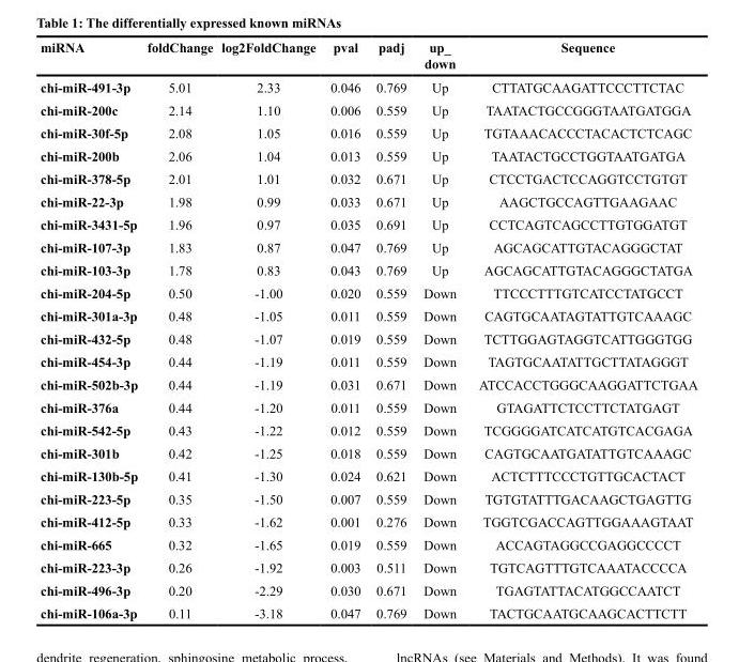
<table><thead><tr><td>miRNA</td><td>foldChange</td><td>log2FoldChange</td><td>pval</td><td>padj</td><td>up_ down</td><td>Sequence</td></tr></thead><tbody><tr><td>chi-miR-491-3p</td><td>5.01</td><td>2.33</td><td>0.046</td><td>0.769</td><td>Up</td><td>CTTATGCAAGATTCCCTTCTAC</td></tr><tr><td>chi-miR-200c</td><td>2.14</td><td>1.10</td><td>0.006</td><td>0.559</td><td>Up</td><td>TAATACTGCCGGGTAATGATGGA</td></tr><tr><td>chi-miR-30f-5p</td><td>2.08</td><td>1.05</td><td>0.016</td><td>0.559</td><td>Up</td><td>TGTAAACACCCTACACTCTCAGC</td></tr><tr><td>chi-miR-200b</td><td>2.06</td><td>1.04</td><td>0.013</td><td>0.559</td><td>Up</td><td>TAATACTGCCTGGTAATGATGA</td></tr><tr><td>chi-miR-378-5p</td><td>2.01</td><td>1.01</td><td>0.032</td><td>0.671</td><td>Up</td><td>CTCCTGACTCCAGGTCCTGTGT</td></tr><tr><td>chi-miR-22-3p</td><td>1.98</td><td>0.99</td><td>0.033</td><td>0.671</td><td>Up</td><td>AAGCTGCCAGTTGAAGAAC</td></tr><tr><td>chi-miR-3431-5p</td><td>1.96</td><td>0.97</td><td>0.035</td><td>0.691</td><td>Up</td><td>CCTCAGTCAGCCTTGTGGATGT</td></tr><tr><td>chi-miR-107-3p</td><td>1.83</td><td>0.87</td><td>0.047</td><td>0.769</td><td>Up</td><td>AGCAGCATTGTACAGGGCTAT</td></tr><tr><td>chi-miR-103-3p</td><td>1.78</td><td>0.83</td><td>0.043</td><td>0.769</td><td>Up</td><td>AGCAGCATTGTACAGGGCTATGA</td></tr><tr><td>chi-miR-204-5p</td><td>0.50</td><td>-1.00</td><td>0.020</td><td>0.559</td><td>Down</td><td>TTCCCTTTGTCATCCTATGCCT</td></tr><tr><td>chi-miR-301a-3p</td><td>0.48</td><td>-1.05</td><td>0.011</td><td>0.559</td><td>Down</td><td>CAGTGCAATAGTATTGTCAAAGC</td></tr><tr><td>chi-miR-432-5p</td><td>0.48</td><td>-1.07</td><td>0.019</td><td>0.559</td><td>Down</td><td>TCTTGGAGTAGGTCATTGGGTGG</td></tr><tr><td>chi-miR-454-3p</td><td>0.44</td><td>-1.19</td><td>0.011</td><td>0.559</td><td>Down</td><td>TAGTGCAATATTGCTTATAGGGT</td></tr><tr><td>chi-miR-502b-3p</td><td>0.44</td><td>-1.19</td><td>0.031</td><td>0.671</td><td>Down</td><td>ATCCACCTGGGCAAGGATTCTGAA</td></tr><tr><td>chi-miR-376a</td><td>0.44</td><td>-1.20</td><td>0.011</td><td>0.559</td><td>Down</td><td>GTAGATTCTCCTTCTATGAGT</td></tr><tr><td>chi-miR-542-5p</td><td>0.43</td><td>-1.22</td><td>0.012</td><td>0.559</td><td>Down</td><td>TCGGGGATCATCATGTCACGAGA</td></tr><tr><td>chi-miR-301b</td><td>0.42</td><td>-1.25</td><td>0.018</td><td>0.559</td><td>Down</td><td>CAGTGCAATGATATTGTCAAAGC</td></tr><tr><td>chi-miR-130b-5p</td><td>0.41</td><td>-1.30</td><td>0.024</td><td>0.621</td><td>Down</td><td>ACTCTTTCCCTGTTGCACTACT</td></tr><tr><td>chi-miR-223-5p</td><td>0.35</td><td>-1.50</td><td>0.007</td><td>0.559</td><td>Down</td><td>TGTGTATTTGACAAGCTGAGTTG</td></tr><tr><td>chi-miR-412-5p</td><td>0.33</td><td>-1.62</td><td>0.001</td><td>0.276</td><td>Down</td><td>TGGTCGACCAGTTGGAAAGTAAT</td></tr><tr><td>chi-miR-665</td><td>0.32</td><td>-1.65</td><td>0.019</td><td>0.559</td><td>Down</td><td>ACCAGTAGGCCGAGGCCCCT</td></tr><tr><td>chi-miR-223-3p</td><td>0.26</td><td>-1.92</td><td>0.003</td><td>0.511</td><td>Down</td><td>TGTCAGTTTGTCAAATACCCCA</td></tr><tr><td>chi-miR-496-3p</td><td>0.20</td><td>-2.29</td><td>0.030</td><td>0.671</td><td>Down</td><td>TGAGTATTACATGGCCAATCT</td></tr><tr><td>chi-miR-106a-3p</td><td>0.11</td><td>-3.18</td><td>0.047</td><td>0.769</td><td>Down</td><td>TACTGCAATGCAAGCACTTCTT</td></tr></tbody></table>